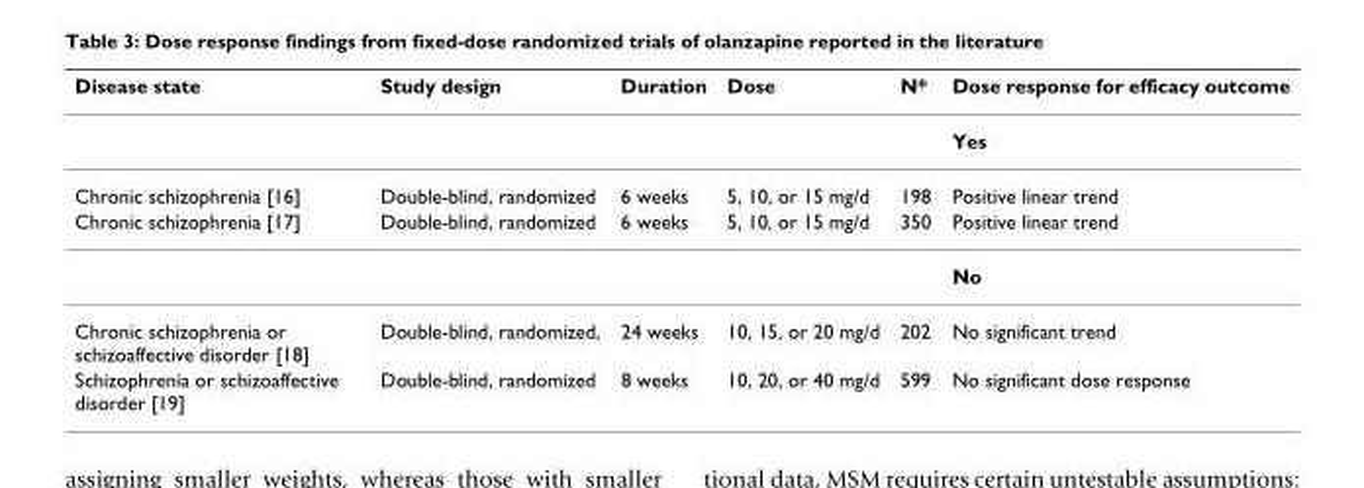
<table><thead><tr><td>Disease state</td><td>Study design</td><td>Duration</td><td>Dose</td><td>N*</td><td>Dose response for efficacy outcome</td></tr></thead><tbody><tr><td></td><td></td><td></td><td></td><td></td><td>Yes</td></tr><tr><td>Chronic schizophrenia [16]</td><td>Double-blind, randomized</td><td>6 weeks</td><td>5, 10, or 15 mg/d</td><td>198</td><td>Positive linear trend</td></tr><tr><td rowspan="2">Chronic schizophrenia [17]</td><td>Double-blind, randomized</td><td>6 weeks</td><td>5, 10, or 15 mg/d</td><td>350</td><td>Positive linear trend</td></tr><tr><td></td><td></td><td></td><td></td><td>No</td></tr><tr><td>Chronic schizophrenia or schizoaffective disorder [18]</td><td>Double-blind, randomized,</td><td>24 weeks</td><td>10, 15, or 20 mg/d</td><td>202</td><td>No significant trend</td></tr><tr><td>Schizophrenia or schizoaffective disorder [19]</td><td>Double-blind, randomized</td><td>8 weeks</td><td>10, 20, or 40 mg/d</td><td>599</td><td>No significant dose response</td></tr></tbody></table>